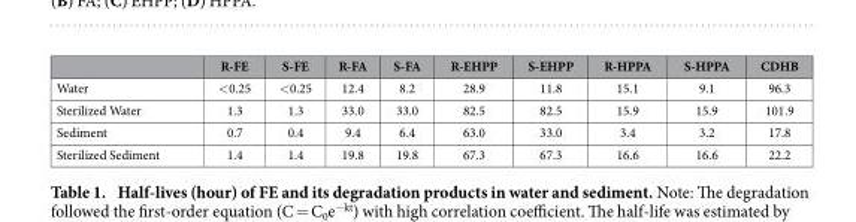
<table><thead><tr><td></td><td>R-FE</td><td>S-FE</td><td>R-FA</td><td>S-FA</td><td>R-EHPP</td><td>S-EHPP</td><td>R-HPPA</td><td>S-HPPA</td><td>CDHB</td></tr></thead><tbody><tr><td>Water</td><td>&lt; 0.25</td><td>&lt; 0.25</td><td>12.4</td><td>8.2</td><td>28.9</td><td>11.8</td><td>15.1</td><td>9.1</td><td>96.3</td></tr><tr><td>Sterilized Water</td><td>1.3</td><td>1.3</td><td>33.0</td><td>33.0</td><td>82.5</td><td>82.5</td><td>15.9</td><td>15.9</td><td>101.9</td></tr><tr><td>Sediment</td><td>0.7</td><td>0.4</td><td>9.4</td><td>6.4</td><td>63.0</td><td>33.0</td><td>3.4</td><td>3.2</td><td>17.8</td></tr><tr><td>Sterilized Sediment</td><td>1.4</td><td>1.4</td><td>19.8</td><td>19.8</td><td>67.3</td><td>67.3</td><td>16.6</td><td>16.6</td><td>22.2</td></tr></tbody></table>